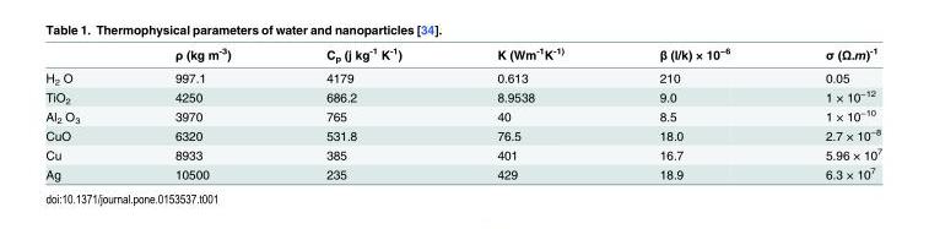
<table><thead><tr><td></td><td>ρ (kg m<sup>-3</sup>)</td><td>C<sub>p</sub> (j kg<sup>-1</sup> K<sup>-1</sup>)</td><td>K (Wm<sup>-1</sup>K<sup>-1)</sup></td><td>β (l/k) × 10<sup>−6</sup></td><td>σ (Ω.m)<sup>-1</sup></td></tr></thead><tbody><tr><td>H<sub>2</sub> O</td><td>997.1</td><td>4179</td><td>0.613</td><td>210</td><td>0.05</td></tr><tr><td>TiO<sub>2</sub></td><td>4250</td><td>686.2</td><td>8.9538</td><td>9.0</td><td>1 × 10<sup>−12</sup></td></tr><tr><td>Al<sub>2</sub> O<sub>3</sub></td><td>3970</td><td>765</td><td>40</td><td>8.5</td><td>1 × 10<sup>−10</sup></td></tr><tr><td>CuO</td><td>6320</td><td>531.8</td><td>76.5</td><td>18.0</td><td>2.7 × 10<sup>−8</sup></td></tr><tr><td>Cu</td><td>8933</td><td>385</td><td>401</td><td>16.7</td><td>5.96 × 10<sup>7</sup></td></tr><tr><td>Ag</td><td>10500</td><td>235</td><td>429</td><td>18.9</td><td>6.3 × 10<sup>7</sup></td></tr></tbody></table>